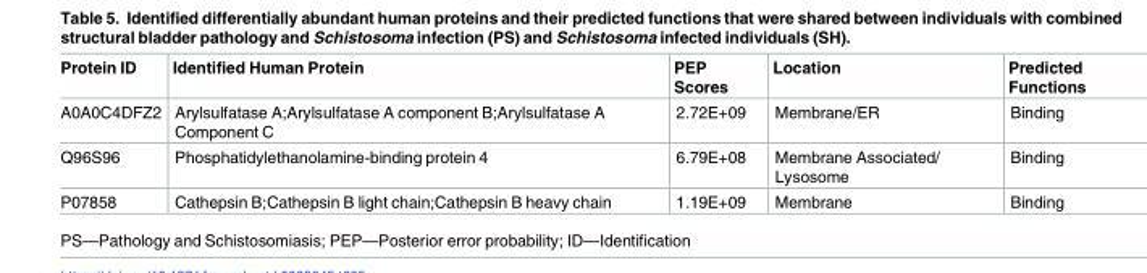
<table><thead><tr><td>Protein ID</td><td>Identified Human Protein</td><td>PEP Scores</td><td>Location</td><td>Predicted Functions</td></tr></thead><tbody><tr><td>A0A0C4DFZ2</td><td>Arylsulfatase A;Arylsulfatase A component B;Arylsulfatase A Component C</td><td>2.72E+09</td><td>Membrane/ER</td><td>Binding</td></tr><tr><td>Q96S96</td><td>Phosphatidylethanolamine-binding protein 4</td><td>6.79E+08</td><td>Membrane Associated/ Lysosome</td><td>Binding</td></tr><tr><td>P07858</td><td>Cathepsin B;Cathepsin B light chain;Cathepsin B heavy chain</td><td>1.19E+09</td><td>Membrane</td><td>Binding</td></tr></tbody></table>